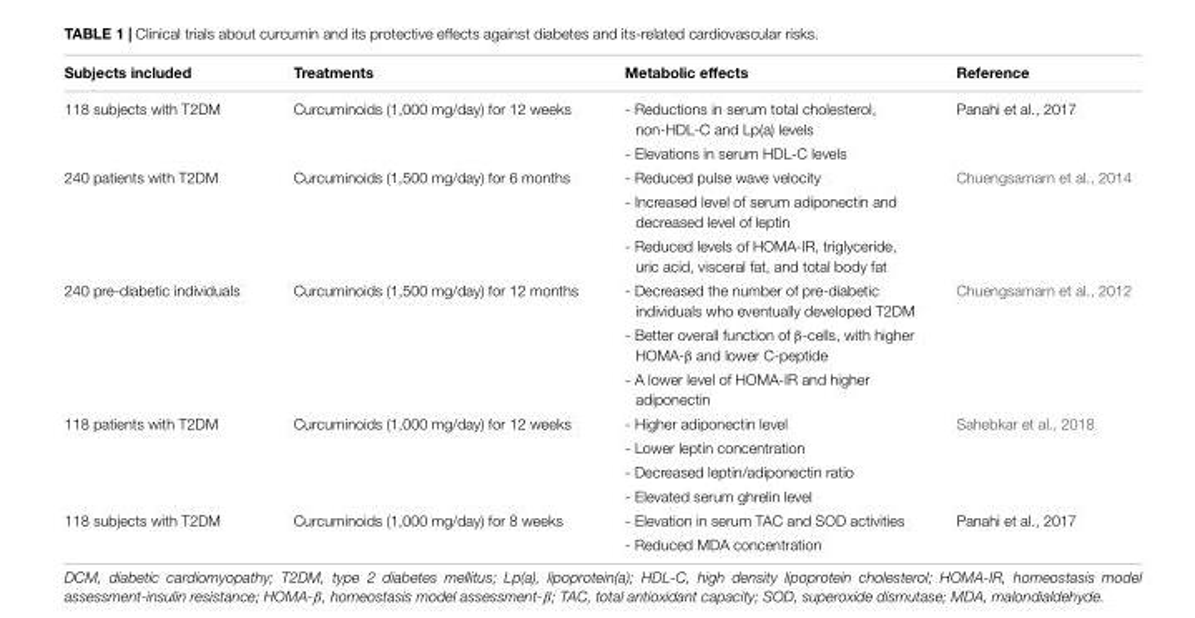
<table><thead><tr><td>Subjects included</td><td>Treatments</td><td>Metabolic effects</td><td>Reference</td></tr></thead><tbody><tr><td rowspan="2">118 subjects with T2DM</td><td>Curcuminoids (1,000 mg/day) for 12 weeks</td><td>- Reductions in serum total cholesterol, non-HDL-C and Lp(a) levels</td><td>Panahi et al., 2017</td></tr><tr><td></td><td>- Elevations in serum HDL-C levels</td><td></td></tr><tr><td rowspan="3">240 patients with T2DM</td><td>Curcuminoids (1,500 mg/day) for 6 months</td><td>- Reduced pulse wave velocity</td><td>Chuengsamarn et al., 2014</td></tr><tr><td></td><td>- Increased level of serum adiponectin and decreased level of leptin</td><td></td></tr><tr><td></td><td>- Reduced levels of HOMA-IR, triglyceride, uric acid, visceral fat, and total body fat</td><td></td></tr><tr><td rowspan="3">240 pre-diabetic individuals</td><td>Curcuminoids (1,500 mg/day) for 12 months</td><td>- Decreased the number of pre-diabetic individuals who eventually developed T2DM</td><td>Chuengsamarn et al., 2012</td></tr><tr><td></td><td>- Better overall function of β-cells, with higher HOMA-β and lower C-peptide</td><td></td></tr><tr><td></td><td>- A lower level of HOMA-IR and higher adiponectin</td><td></td></tr><tr><td rowspan="4">118 patients with T2DM</td><td>Curcuminoids (1,000 mg/day) for 12 weeks</td><td>- Higher adiponectin level</td><td>Sahebkar et al., 2018</td></tr><tr><td></td><td>- Lower leptin concentration</td><td></td></tr><tr><td></td><td>- Decreased leptin/adiponectin ratio</td><td></td></tr><tr><td></td><td>- Elevated serum ghrelin level</td><td></td></tr><tr><td rowspan="2">118 subjects with T2DM</td><td>Curcuminoids (1,000 mg/day) for 8 weeks</td><td>- Elevation in serum TAC and SOD activities</td><td>Panahi et al., 2017</td></tr><tr><td></td><td>- Reduced MDA concentration</td><td></td></tr></tbody></table>